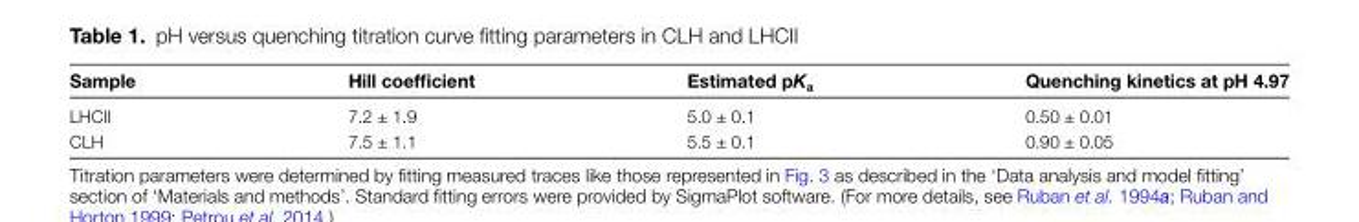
<table><thead><tr><td>Sample</td><td>Hill coefficient</td><td>Estimated pK<sub>a</sub></td><td>Quenching kinetics at pH 4.97</td></tr></thead><tbody><tr><td>LHCII</td><td>7.2 ± 1.9</td><td>5.0 ± 0.1</td><td>0.50 ± 0.01</td></tr><tr><td>CLH</td><td>7.5 ± 1.1</td><td>5.5 ± 0.1</td><td>0.90 ± 0.05</td></tr></tbody></table>